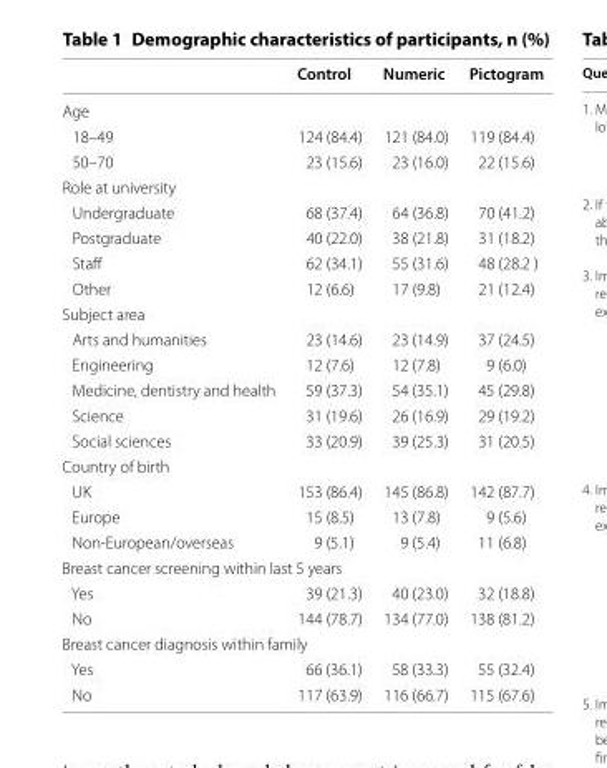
<table><thead><tr><td></td><td>Control</td><td>Numeric</td><td>Pictogram</td></tr></thead><tbody><tr><td colspan="4">Age</td></tr><tr><td>18–49</td><td>124 (84.4)</td><td>121 (84.0)</td><td>119 (84.4)</td></tr><tr><td>50–70</td><td>23 (15.6)</td><td>23 (16.0)</td><td>22 (15.6)</td></tr><tr><td colspan="4">Role at university</td></tr><tr><td>Undergraduate</td><td>68 (37.4)</td><td>64 (36.8)</td><td>70 (41.2)</td></tr><tr><td>Postgraduate</td><td>40 (22.0)</td><td>38 (21.8)</td><td>31 (18.2)</td></tr><tr><td>Staff</td><td>62 (34.1)</td><td>55 (31.6)</td><td>48 (28.2 )</td></tr><tr><td>Other</td><td>12 (6.6)</td><td>17 (9.8)</td><td>21 (12.4)</td></tr><tr><td colspan="4">Subject area</td></tr><tr><td>Arts and humanities</td><td>23 (14.6)</td><td>23 (14.9)</td><td>37 (24.5)</td></tr><tr><td>Engineering</td><td>12 (7.6)</td><td>12 (7.8)</td><td>9 (6.0)</td></tr><tr><td>Medicine, dentistry and health</td><td>59 (37.3)</td><td>54 (35.1)</td><td>45 (29.8)</td></tr><tr><td>Science</td><td>31 (19.6)</td><td>26 (16.9)</td><td>29 (19.2)</td></tr><tr><td>Social sciences</td><td>33 (20.9)</td><td>39 (25.3)</td><td>31 (20.5)</td></tr><tr><td colspan="4">Country of birth</td></tr><tr><td>UK</td><td>153 (86.4)</td><td>145 (86.8)</td><td>142 (87.7)</td></tr><tr><td>Europe</td><td>15 (8.5)</td><td>13 (7.8)</td><td>9 (5.6)</td></tr><tr><td>Non-European/overseas</td><td>9 (5.1)</td><td>9 (5.4)</td><td>11 (6.8)</td></tr><tr><td colspan="4">Breast cancer screening within last 5 years</td></tr><tr><td>Yes</td><td>39 (21.3)</td><td>40 (23.0)</td><td>32 (18.8)</td></tr><tr><td>No</td><td>144 (78.7)</td><td>134 (77.0)</td><td>138 (81.2)</td></tr><tr><td colspan="4">Breast cancer diagnosis within family</td></tr><tr><td>Yes</td><td>66 (36.1)</td><td>58 (33.3)</td><td>55 (32.4)</td></tr><tr><td>No</td><td>117 (63.9)</td><td>116 (66.7)</td><td>115 (67.6)</td></tr></tbody></table>